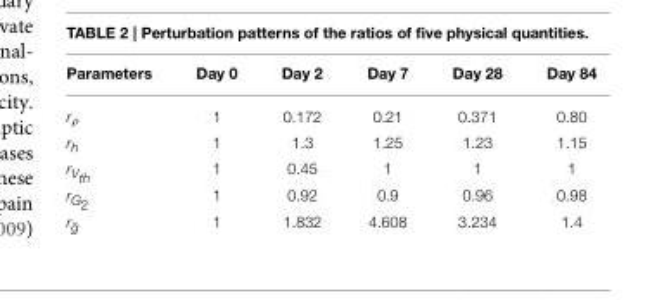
<table><thead><tr><td>Parameters</td><td>Day 0</td><td>Day 2</td><td>Day 7</td><td>Day 28</td><td>Day 84</td></tr></thead><tbody><tr><td>r<sub>ρ</sub></td><td>1</td><td>0.172</td><td>0.21</td><td>0.371</td><td>0.80</td></tr><tr><td>r<sub>h</sub></td><td>1</td><td>1.3</td><td>1.25</td><td>1.23</td><td>1.15</td></tr><tr><td>rVth</td><td>1</td><td>0.45</td><td>1</td><td>1</td><td>1</td></tr><tr><td>rG2</td><td>1</td><td>0.92</td><td>0.9</td><td>0.96</td><td>0.98</td></tr><tr><td>r¯g</td><td>1</td><td>1.832</td><td>4.608</td><td>3.234</td><td>1.4</td></tr></tbody></table>